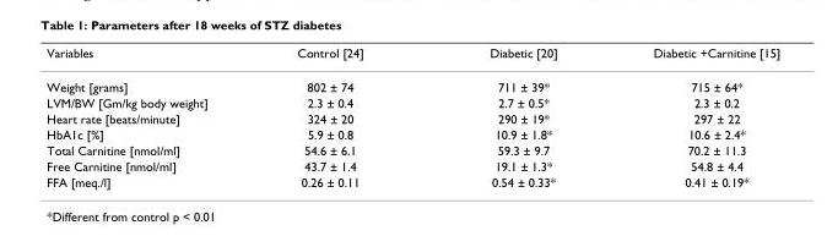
<table><thead><tr><td>Variables</td><td>Control [24]</td><td>Diabetic [20]</td><td>Diabetic +Carnitine [15]</td></tr></thead><tbody><tr><td>Weight [grams]</td><td>802 ± 74</td><td>711 ± 39*</td><td>715 ± 64*</td></tr><tr><td>LVM/BW [Gm/kg body weight]</td><td>2.3 ± 0.4</td><td>2.7 ± 0.5*</td><td>2.3 ± 0.2</td></tr><tr><td>Heart rate [beats/minute]</td><td>324 ± 20</td><td>290 ± 19*</td><td>297 ± 22</td></tr><tr><td>HbA1c [%]</td><td>5.9 ± 0.8</td><td>10.9 ± 1.8*</td><td>10.6 ± 2.4*</td></tr><tr><td>Total Carnitine [nmol/ml]</td><td>54.6 ± 6.1</td><td>59.3 ± 9.7</td><td>70.2 ± 11.3</td></tr><tr><td>Free Carnitine [nmol/ml]</td><td>43.7 ± 1.4</td><td>19.1 ± 1.3*</td><td>54.8 ± 4.4</td></tr><tr><td>FFA [meq./l]</td><td>0.26 ± 0.11</td><td>0.54 ± 0.33*</td><td>0.41 ± 0.19*</td></tr></tbody></table>